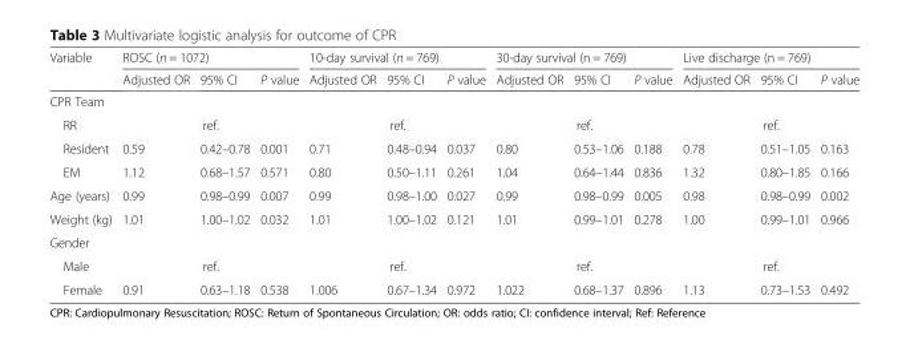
<table><thead><tr><td rowspan="2">Variable</td><td colspan="3">ROSC (n = 1072)</td><td colspan="3">10-day survival (n = 769)</td><td colspan="3">30-day survival (n = 769)</td><td colspan="3">Live discharge (n = 769)</td></tr><tr><td>Adjusted OR</td><td>95% CI</td><td>P value</td><td>Adjusted OR</td><td>95% CI</td><td>P value</td><td>Adjusted OR</td><td>95% CI</td><td>P value</td><td>Adjusted OR</td><td>95% CI</td><td>P value</td></tr></thead><tbody><tr><td colspan="13">CPR Team</td></tr><tr><td>RR</td><td colspan="3">ref.</td><td colspan="3">ref.</td><td colspan="3">ref.</td><td colspan="3">ref.</td></tr><tr><td>Resident</td><td>0.59</td><td>0.42–0.78</td><td>0.001</td><td>0.71</td><td>0.48–0.94</td><td>0.037</td><td>0.80</td><td>0.53–1.06</td><td>0.188</td><td>0.78</td><td>0.51–1.05</td><td>0.163</td></tr><tr><td>EM</td><td>1.12</td><td>0.68–1.57</td><td>0.571</td><td>0.80</td><td>0.50–1.11</td><td>0.261</td><td>1.04</td><td>0.64–1.44</td><td>0.836</td><td>1.32</td><td>0.80–1.85</td><td>0.166</td></tr><tr><td>Age (years)</td><td>0.99</td><td>0.98–0.99</td><td>0.007</td><td>0.99</td><td>0.98–1.00</td><td>0.027</td><td>0.99</td><td>0.98–0.99</td><td>0.005</td><td>0.98</td><td>0.98–0.99</td><td>0.002</td></tr><tr><td>Weight (kg)</td><td>1.01</td><td>1.00–1.02</td><td>0.032</td><td>1.01</td><td>1.00–1.02</td><td>0.121</td><td>1.01</td><td>0.99–1.01</td><td>0.278</td><td>1.00</td><td>0.99–1.01</td><td>0.966</td></tr><tr><td colspan="13">Gender</td></tr><tr><td>Male</td><td colspan="3">ref.</td><td colspan="3">ref.</td><td colspan="3">ref.</td><td colspan="3">ref.</td></tr><tr><td>Female</td><td>0.91</td><td>0.63–1.18</td><td>0.538</td><td>1.006</td><td>0.67–1.34</td><td>0.972</td><td>1.022</td><td>0.68–1.37</td><td>0.896</td><td>1.13</td><td>0.73–1.53</td><td>0.492</td></tr></tbody></table>